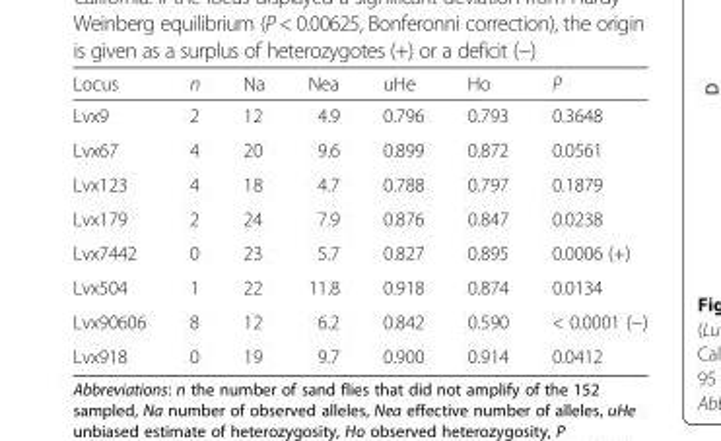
<table><thead><tr><td>Locus</td><td>n</td><td>Na</td><td>Nea</td><td>uHe</td><td>Ho</td><td>P</td></tr></thead><tbody><tr><td>Lvx9</td><td>2</td><td>12</td><td>4.9</td><td>0.796</td><td>0.793</td><td>0.3648</td></tr><tr><td>Lvx67</td><td>4</td><td>20</td><td>9.6</td><td>0.899</td><td>0.872</td><td>0.0561</td></tr><tr><td>Lvx123</td><td>4</td><td>18</td><td>4.7</td><td>0.788</td><td>0.797</td><td>0.1879</td></tr><tr><td>Lvx179</td><td>2</td><td>24</td><td>7.9</td><td>0.876</td><td>0.847</td><td>0.0238</td></tr><tr><td>Lvx7442</td><td>0</td><td>23</td><td>5.7</td><td>0.827</td><td>0.895</td><td>0.0006 (+)</td></tr><tr><td>Lvx504</td><td>1</td><td>22</td><td>11.8</td><td>0.918</td><td>0.874</td><td>0.0134</td></tr><tr><td>Lvx90606</td><td>8</td><td>12</td><td>6.2</td><td>0.842</td><td>0.590</td><td>&lt; 0.0001 (−)</td></tr><tr><td>Lvx918</td><td>0</td><td>19</td><td>9.7</td><td>0.900</td><td>0.914</td><td>0.0412</td></tr></tbody></table>